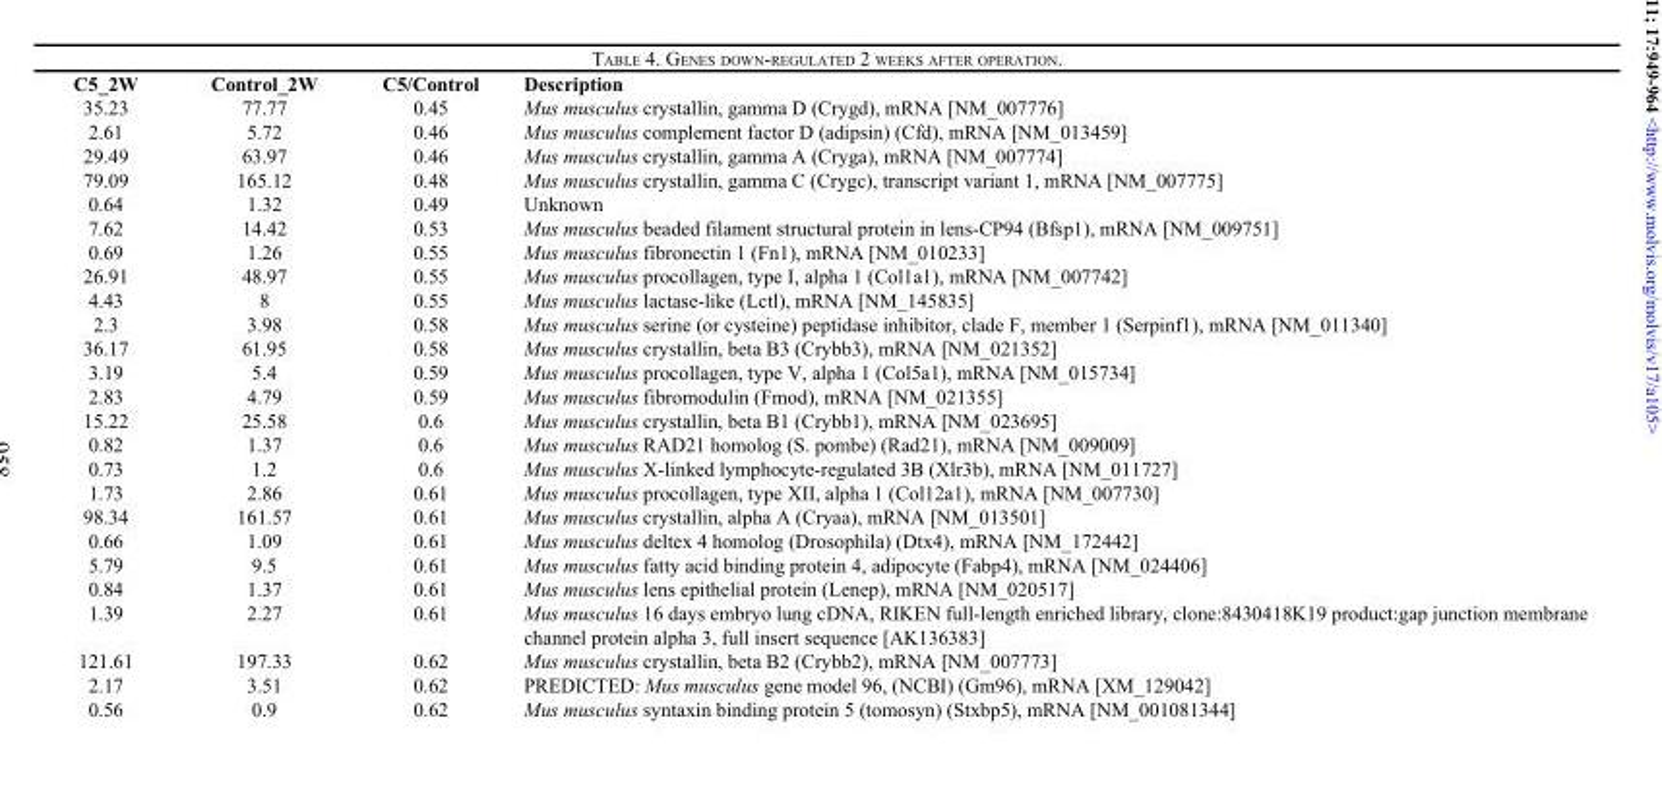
<table><thead><tr><td>C5_2W</td><td>Control_2W</td><td>C5/Control</td><td>Description</td></tr></thead><tbody><tr><td>35.23</td><td>77.77</td><td>0.45</td><td>Mus musculus crystallin, gamma D (Crygd), mRNA [NM_007776]</td></tr><tr><td>2.61</td><td>5.72</td><td>0.46</td><td>Mus musculus complement factor D (adipsin) (Cfd), mRNA [NM_013459]</td></tr><tr><td>29.49</td><td>63.97</td><td>0.46</td><td>Mus musculus crystallin, gamma A (Cryga), mRNA [NM_007774]</td></tr><tr><td>79.09</td><td>165.12</td><td>0.48</td><td>Mus musculus crystallin, gamma C (Crygc), transcript variant 1, mRNA [NM_007775]</td></tr><tr><td>0.64</td><td>1.32</td><td>0.49</td><td>Unknown</td></tr><tr><td>7.62</td><td>14.42</td><td>0.53</td><td>Mus musculus beaded filament structural protein in lens-CP94 (Bfsp1), mRNA [NM_009751]</td></tr><tr><td>0.69</td><td>1.26</td><td>0.55</td><td>Mus musculus fibronectin 1 (Fn1), mRNA [NM_010233]</td></tr><tr><td>26.91</td><td>48.97</td><td>0.55</td><td>Mus musculus procollagen, type I, alpha 1 (Col1a1), mRNA [NM_007742]</td></tr><tr><td>4.43</td><td>8</td><td>0.55</td><td>Mus musculus lactase-like (Lctl), mRNA [NM_145835]</td></tr><tr><td>2.3</td><td>3.98</td><td>0.58</td><td>Mus musculus serine (or cysteine) peptidase inhibitor, clade F, member 1 (Serpinf1), mRNA [NM_011340]</td></tr><tr><td>36.17</td><td>61.95</td><td>0.58</td><td>Mus musculus crystallin, beta B3 (Crybb3), mRNA [NM_021352]</td></tr><tr><td>3.19</td><td>5.4</td><td>0.59</td><td>Mus musculus procollagen, type V, alpha 1 (Col5a1), mRNA [NM_015734]</td></tr><tr><td>2.83</td><td>4.79</td><td>0.59</td><td>Mus musculus fibromodulin (Fmod), mRNA [NM_021355]</td></tr><tr><td>15.22</td><td>25.58</td><td>0.6</td><td>Mus musculus crystallin, beta B1 (Crybb1), mRNA [NM_023695]</td></tr><tr><td>0.82</td><td>1.37</td><td>0.6</td><td>Mus musculus RAD21 homolog (S. pombe) (Rad21), mRNA [NM_009009]</td></tr><tr><td>0.73</td><td>1.2</td><td>0.6</td><td>Mus musculus X-linked lymphocyte-regulated 3B (Xlr3b), mRNA [NM_011727]</td></tr><tr><td>1.73</td><td>2.86</td><td>0.61</td><td>Mus musculus procollagen, type XII, alpha 1 (Col12a1), mRNA [NM_007730]</td></tr><tr><td>98.34</td><td>161.57</td><td>0.61</td><td>Mus musculus crystallin, alpha A (Cryaa), mRNA [NM_013501]</td></tr><tr><td>0.66</td><td>1.09</td><td>0.61</td><td>Mus musculus deltex 4 homolog (Drosophila) (Dtx4), mRNA [NM_172442]</td></tr><tr><td>5.79</td><td>9.5</td><td>0.61</td><td>Mus musculus fatty acid binding protein 4, adipocyte (Fabp4), mRNA [NM_024406]</td></tr><tr><td>0.84</td><td>1.37</td><td>0.61</td><td>Mus musculus lens epithelial protein (Lenep), mRNA [NM_020517]</td></tr><tr><td>1.39</td><td>2.27</td><td>0.61</td><td>Mus musculus 16 days embryo lung cDNA, RIKEN full-length enriched library, clone:8430418K19 product:gap junction membrane channel protein alpha 3, full insert sequence [AK136383]</td></tr><tr><td>121.61</td><td>197.33</td><td>0.62</td><td>Mus musculus crystallin, beta B2 (Crybb2), mRNA [NM_007773]</td></tr><tr><td>2.17</td><td>3.51</td><td>0.62</td><td>PREDICTED: Mus musculus gene model 96, (NCBI) (Gm96), mRNA [XM_129042]</td></tr><tr><td>0.56</td><td>0.9</td><td>0.62</td><td>Mus musculus syntaxin binding protein 5 (tomosyn) (Stxbp5), mRNA [NM_001081344]</td></tr></tbody></table>